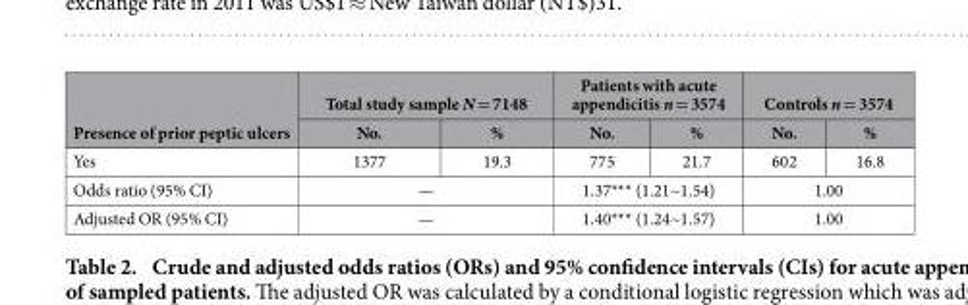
<table><thead><tr><td rowspan="2">Presence of prior peptic ulcers</td><td colspan="2">Total study sample N = 7148</td><td colspan="2">Patients with acute appendicitis n = 3574</td><td colspan="2">Controls n = 3574</td></tr><tr><td>No.</td><td>%</td><td>No.</td><td>%</td><td>No.</td><td>%</td></tr></thead><tbody><tr><td>Yes</td><td>1377</td><td>19.3</td><td>775</td><td>21.7</td><td>602</td><td>16.8</td></tr><tr><td>Odds ratio (95% CI)</td><td colspan="2">—</td><td colspan="2">1.37*** (1.21~1.54)</td><td colspan="2">1.00</td></tr><tr><td>Adjusted OR (95% CI)</td><td colspan="2">—</td><td colspan="2">1.40*** (1.24~1.57)</td><td colspan="2">1.00</td></tr></tbody></table>